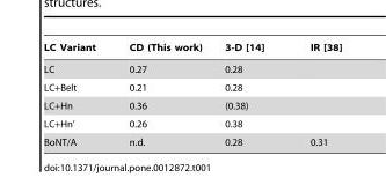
<table><thead><tr><td>LC Variant</td><td>CD (This work)</td><td>3-D [14]</td><td>IR [38]</td></tr></thead><tbody><tr><td>LC</td><td>0.27</td><td>0.28</td><td></td></tr><tr><td>LC+Belt</td><td>0.21</td><td>0.28</td><td></td></tr><tr><td>LC+Hn</td><td>0.36</td><td>(0.38)</td><td></td></tr><tr><td>LC+Hn’</td><td>0.26</td><td>0.38</td><td></td></tr><tr><td>BoNT/A</td><td>n.d.</td><td>0.28</td><td>0.31</td></tr></tbody></table>